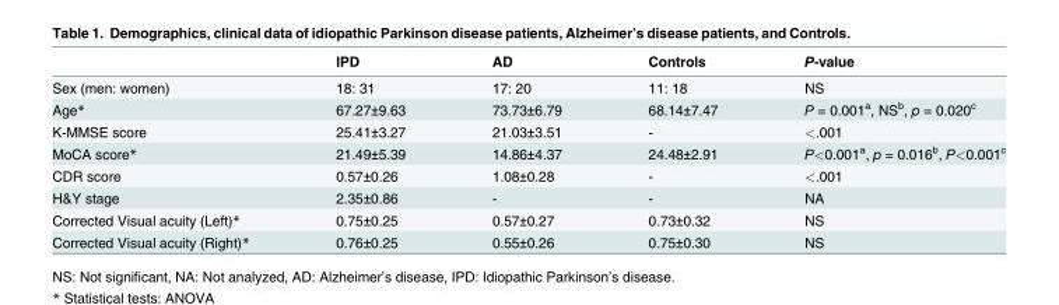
<table><thead><tr><td></td><td>IPD</td><td>AD</td><td>Controls</td><td>P-value</td></tr></thead><tbody><tr><td>Sex (men: women)</td><td>18: 31</td><td>17: 20</td><td>11: 18</td><td>NS</td></tr><tr><td>Age*</td><td>67.27±9.63</td><td>73.73±6.79</td><td>68.14±7.47</td><td>P = 0.001<sup>a</sup>, NS<sup>b</sup>, p = 0.020<sup>c</sup></td></tr><tr><td>K-MMSE score</td><td>25.41±3.27</td><td>21.03±3.51</td><td>-</td><td>&lt;.001</td></tr><tr><td>MoCA score*</td><td>21.49±5.39</td><td>14.86±4.37</td><td>24.48±2.91</td><td>P&lt;0.001<sup>a</sup>, p = 0.016<sup>b</sup>, P&lt;0.001<sup>c</sup></td></tr><tr><td>CDR score</td><td>0.57±0.26</td><td>1.08±0.28</td><td>-</td><td>&lt;.001</td></tr><tr><td>H&amp;Y stage</td><td>2.35±0.86</td><td>-</td><td>-</td><td>NA</td></tr><tr><td>Corrected Visual acuity (Left)*</td><td>0.75±0.25</td><td>0.57±0.27</td><td>0.73±0.32</td><td>NS</td></tr><tr><td>Corrected Visual acuity (Right)*</td><td>0.76±0.25</td><td>0.55±0.26</td><td>0.75±0.30</td><td>NS</td></tr></tbody></table>